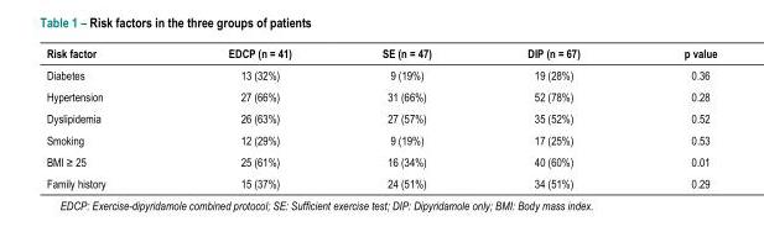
<table><thead><tr><td>Risk factor</td><td>EDCP (n = 41)</td><td>SE (n = 47)</td><td>DIP (n = 67)</td><td>p value</td></tr></thead><tbody><tr><td>Diabetes</td><td>13 (32%)</td><td>9 (19%)</td><td>19 (28%)</td><td>0.36</td></tr><tr><td>Hypertension</td><td>27 (66%)</td><td>31 (66%)</td><td>52 (78%)</td><td>0.28</td></tr><tr><td>Dyslipidemia</td><td>26 (63%)</td><td>27 (57%)</td><td>35 (52%)</td><td>0.52</td></tr><tr><td>Smoking</td><td>12 (29%)</td><td>9 (19%)</td><td>17 (25%)</td><td>0.53</td></tr><tr><td>BMI ≥ 25</td><td>25 (61%)</td><td>16 (34%)</td><td>40 (60%)</td><td>0.01</td></tr><tr><td>Family history</td><td>15 (37%)</td><td>24 (51%)</td><td>34 (51%)</td><td>0.29</td></tr></tbody></table>